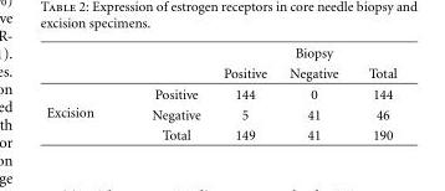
<table><thead><tr><td rowspan="2"></td><td rowspan="2"></td><td rowspan="2">Positive</td><td rowspan="2">Biopsy Negative</td><td rowspan="2">Total</td></tr><tr></tr></thead><tbody><tr><td rowspan="3">Excision</td><td>Positive</td><td>144</td><td>0</td><td>144</td></tr><tr><td>Negative</td><td>5</td><td>41</td><td>46</td></tr><tr><td>Total</td><td>149</td><td>41</td><td>190</td></tr></tbody></table>